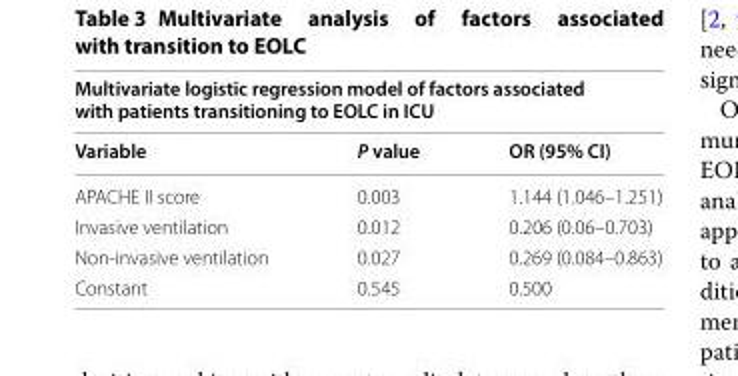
<table><thead><tr><td colspan="3">Multivariate logistic regression model of factors associated with patients transitioning to EOLC in ICU</td></tr><tr><td>Variable</td><td>P value</td><td>OR (95% CI)</td></tr></thead><tbody><tr><td>APACHE II score</td><td>0.003</td><td>1.144 (1.046–1.251)</td></tr><tr><td>Invasive ventilation</td><td>0.012</td><td>0.206 (0.06–0.703)</td></tr><tr><td>Non‑invasive ventilation</td><td>0.027</td><td>0.269 (0.084–0.863)</td></tr><tr><td>Constant</td><td>0.545</td><td>0.500</td></tr></tbody></table>